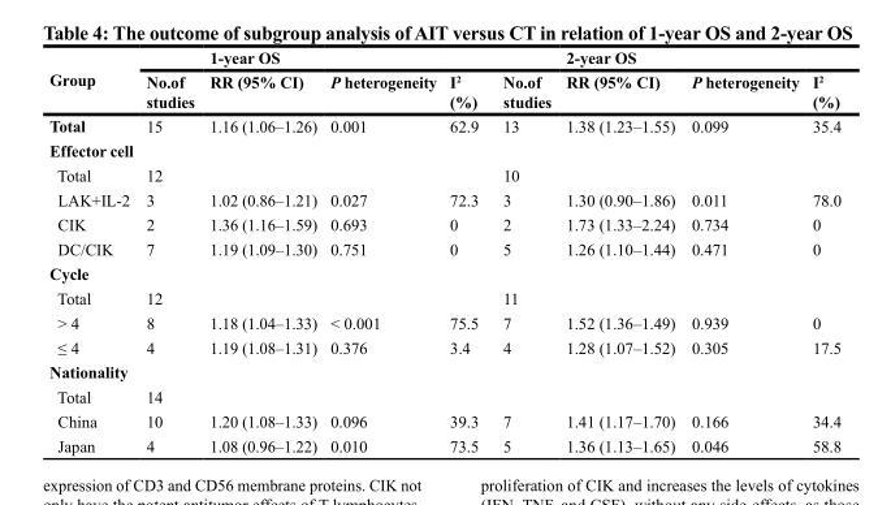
<table><thead><tr><td rowspan="2">Group</td><td colspan="4">1-year OS</td><td colspan="4">2-year OS</td></tr><tr><td>No.of studies</td><td>RR (95% CI)</td><td>P heterogeneity</td><td>I<sup>2</sup> (%)</td><td>No.of studies</td><td>RR (95% CI)</td><td>P heterogeneity</td><td>I<sup>2</sup> (%)</td></tr></thead><tbody><tr><td>Total</td><td>15</td><td>1.16 (1.06–1.26)</td><td>0.001</td><td>62.9</td><td>13</td><td>1.38 (1.23–1.55)</td><td>0.099</td><td>35.4</td></tr><tr><td colspan="9">Effector cell</td></tr><tr><td>Total</td><td>12</td><td></td><td></td><td></td><td>10</td><td></td><td></td><td></td></tr><tr><td>LAK+IL-2</td><td>3</td><td>1.02 (0.86–1.21)</td><td>0.027</td><td>72.3</td><td>3</td><td>1.30 (0.90–1.86)</td><td>0.011</td><td>78.0</td></tr><tr><td>CIK</td><td>2</td><td>1.36 (1.16–1.59)</td><td>0.693</td><td>0</td><td>2</td><td>1.73 (1.33–2.24)</td><td>0.734</td><td>0</td></tr><tr><td>DC/CIK</td><td>7</td><td>1.19 (1.09–1.30)</td><td>0.751</td><td>0</td><td>5</td><td>1.26 (1.10–1.44)</td><td>0.471</td><td>0</td></tr><tr><td colspan="9">Cycle</td></tr><tr><td>Total</td><td>12</td><td></td><td></td><td></td><td>11</td><td></td><td></td><td></td></tr><tr><td>&gt; 4</td><td>8</td><td>1.18 (1.04–1.33)</td><td>&lt; 0.001</td><td>75.5</td><td>7</td><td>1.52 (1.36–1.49)</td><td>0.939</td><td>0</td></tr><tr><td>≤ 4</td><td>4</td><td>1.19 (1.08–1.31)</td><td>0.376</td><td>3.4</td><td>4</td><td>1.28 (1.07–1.52)</td><td>0.305</td><td>17.5</td></tr><tr><td colspan="9">Nationality</td></tr><tr><td>Total</td><td>14</td><td></td><td></td><td></td><td></td><td></td><td></td><td></td></tr><tr><td>China</td><td>10</td><td>1.20 (1.08–1.33)</td><td>0.096</td><td>39.3</td><td>7</td><td>1.41 (1.17–1.70)</td><td>0.166</td><td>34.4</td></tr><tr><td>Japan</td><td>4</td><td>1.08 (0.96–1.22)</td><td>0.010</td><td>73.5</td><td>5</td><td>1.36 (1.13–1.65)</td><td>0.046</td><td>58.8</td></tr></tbody></table>